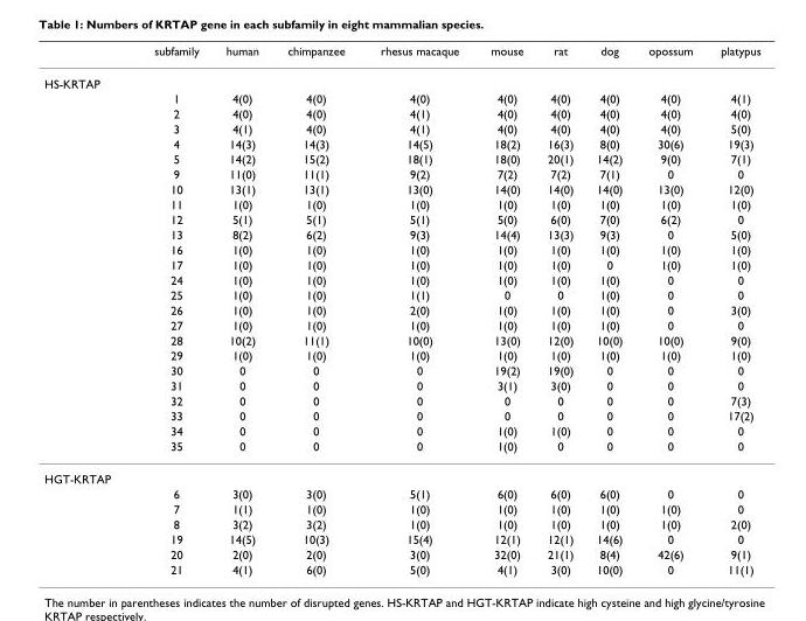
<table><thead><tr><td></td><td>subfamily</td><td>human</td><td>chimpanzee</td><td>rhesus macaque</td><td>mouse</td><td>rat</td><td>dog</td><td>opossum</td><td>platypus</td></tr></thead><tbody><tr><td colspan="10">HS-KRTAP</td></tr><tr><td></td><td>1</td><td>4(0)</td><td>4(0)</td><td>4(0)</td><td>4(0)</td><td>4(0)</td><td>4(0)</td><td>4(0)</td><td>4(1)</td></tr><tr><td></td><td>2</td><td>4(0)</td><td>4(0)</td><td>4(1)</td><td>4(0)</td><td>4(0)</td><td>4(0)</td><td>4(0)</td><td>4(0)</td></tr><tr><td></td><td>3</td><td>4(1)</td><td>4(0)</td><td>4(1)</td><td>4(0)</td><td>4(0)</td><td>4(0)</td><td>4(0)</td><td>5(0)</td></tr><tr><td></td><td>4</td><td>14(3)</td><td>14(3)</td><td>14(5)</td><td>18(2)</td><td>16(3)</td><td>8(0)</td><td>30(6)</td><td>19(3)</td></tr><tr><td></td><td>5</td><td>14(2)</td><td>15(2)</td><td>18(1)</td><td>18(0)</td><td>20(1)</td><td>14(2)</td><td>9(0)</td><td>7(1)</td></tr><tr><td></td><td>9</td><td>11(0)</td><td>11(1)</td><td>9(2)</td><td>7(2)</td><td>7(2)</td><td>7(1)</td><td>0</td><td>0</td></tr><tr><td></td><td>10</td><td>13(1)</td><td>13(1)</td><td>13(0)</td><td>14(0)</td><td>14(0)</td><td>14(0)</td><td>13(0)</td><td>12(0)</td></tr><tr><td></td><td>11</td><td>1(0)</td><td>1(0)</td><td>1(0)</td><td>1(0)</td><td>1(0)</td><td>1(0)</td><td>1(0)</td><td>1(0)</td></tr><tr><td></td><td>12</td><td>5(1)</td><td>5(1)</td><td>5(1)</td><td>5(0)</td><td>6(0)</td><td>7(0)</td><td>6(2)</td><td>0</td></tr><tr><td></td><td>13</td><td>8(2)</td><td>6(2)</td><td>9(3)</td><td>14(4)</td><td>13(3)</td><td>9(3)</td><td>0</td><td>5(0)</td></tr><tr><td></td><td>16</td><td>1(0)</td><td>1(0)</td><td>1(0)</td><td>1(0)</td><td>1(0)</td><td>1(0)</td><td>1(0)</td><td>1(0)</td></tr><tr><td></td><td>17</td><td>1(0)</td><td>1(0)</td><td>1(0)</td><td>1(0)</td><td>1(0)</td><td>0</td><td>1(0)</td><td>1(0)</td></tr><tr><td></td><td>24</td><td>1(0)</td><td>1(0)</td><td>1(0)</td><td>1(0)</td><td>1(0)</td><td>1(0)</td><td>0</td><td>0</td></tr><tr><td></td><td>25</td><td>1(0)</td><td>1(0)</td><td>1(1)</td><td>0</td><td>0</td><td>1(0)</td><td>0</td><td>0</td></tr><tr><td></td><td>26</td><td>1(0)</td><td>1(0)</td><td>2(0)</td><td>1(0)</td><td>1(0)</td><td>1(0)</td><td>0</td><td>3(0)</td></tr><tr><td></td><td>27</td><td>1(0)</td><td>1(0)</td><td>1(0)</td><td>1(0)</td><td>1(0)</td><td>1(0)</td><td>0</td><td>0</td></tr><tr><td></td><td>28</td><td>10(2)</td><td>11(1)</td><td>10(0)</td><td>13(0)</td><td>12(0)</td><td>10(0)</td><td>10(0)</td><td>9(0)</td></tr><tr><td></td><td>29</td><td>1(0)</td><td>1(0)</td><td>1(0)</td><td>1(0)</td><td>1(0)</td><td>1(0)</td><td>1(0)</td><td>1(0)</td></tr><tr><td></td><td>30</td><td>0</td><td>0</td><td>0</td><td>19(2)</td><td>19(0)</td><td>0</td><td>0</td><td>0</td></tr><tr><td></td><td>31</td><td>0</td><td>0</td><td>0</td><td>3(1)</td><td>3(0)</td><td>0</td><td>0</td><td>0</td></tr><tr><td></td><td>32</td><td>0</td><td>0</td><td>0</td><td>0</td><td>0</td><td>0</td><td>0</td><td>7(3)</td></tr><tr><td></td><td>33</td><td>0</td><td>0</td><td>0</td><td>0</td><td>0</td><td>0</td><td>0</td><td>17(2)</td></tr><tr><td></td><td>34</td><td>0</td><td>0</td><td>0</td><td>1(0)</td><td>1(0)</td><td>0</td><td>0</td><td>0</td></tr><tr><td></td><td>35</td><td>0</td><td>0</td><td>0</td><td>1(0)</td><td>0</td><td>0</td><td>0</td><td>0</td></tr><tr><td colspan="10">HGT-KRTAP</td></tr><tr><td></td><td>6</td><td>3(0)</td><td>3(0)</td><td>5(1)</td><td>6(0)</td><td>6(0)</td><td>6(0)</td><td>0</td><td>0</td></tr><tr><td></td><td>7</td><td>1(1)</td><td>1(0)</td><td>1(0)</td><td>1(0)</td><td>1(0)</td><td>1(0)</td><td>1(0)</td><td>0</td></tr><tr><td></td><td>8</td><td>3(2)</td><td>3(2)</td><td>1(0)</td><td>1(0)</td><td>1(0)</td><td>1(0)</td><td>1(0)</td><td>2(0)</td></tr><tr><td></td><td>19</td><td>14(5)</td><td>10(3)</td><td>15(4)</td><td>12(1)</td><td>12(1)</td><td>14(6)</td><td>0</td><td>0</td></tr><tr><td></td><td>20</td><td>2(0)</td><td>2(0)</td><td>3(0)</td><td>32(0)</td><td>21(1)</td><td>8(4)</td><td>42(6)</td><td>9(1)</td></tr><tr><td></td><td>21</td><td>4(1)</td><td>6(0)</td><td>5(0)</td><td>4(1)</td><td>3(0)</td><td>10(0)</td><td>0</td><td>11(1)</td></tr></tbody></table>